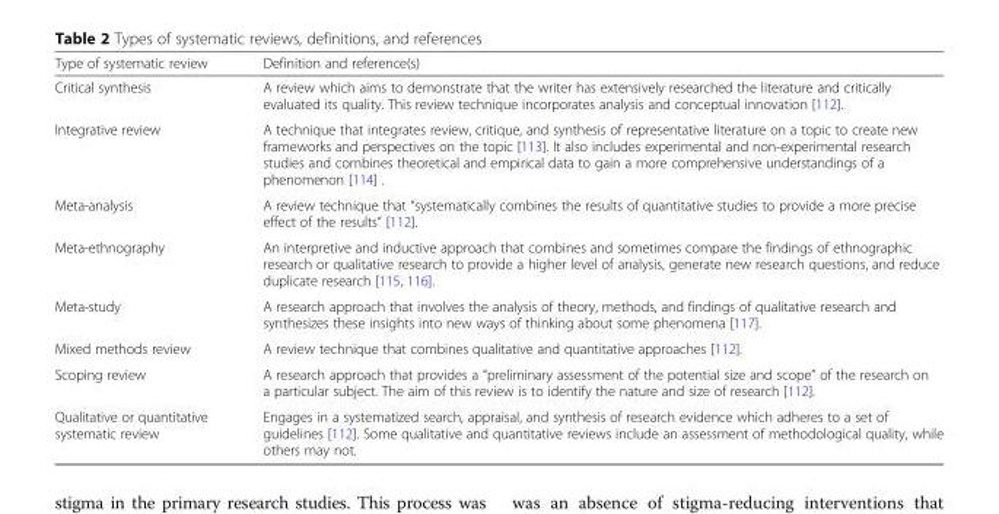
<table><thead><tr><td>Type of systematic review</td><td>Definition and reference(s)</td></tr></thead><tbody><tr><td>Critical synthesis</td><td>A review which aims to demonstrate that the writer has extensively researched the literature and critically evaluated its quality. This review technique incorporates analysis and conceptual innovation [112].</td></tr><tr><td>Integrative review</td><td>A technique that integrates review, critique, and synthesis of representative literature on a topic to create new frameworks and perspectives on the topic [113]. It also includes experimental and non-experimental research studies and combines theoretical and empirical data to gain a more comprehensive understandings of a phenomenon [114] .</td></tr><tr><td>Meta-analysis</td><td>A review technique that “systematically combines the results of quantitative studies to provide a more precise effect of the results” [112].</td></tr><tr><td>Meta-ethnography</td><td>An interpretive and inductive approach that combines and sometimes compare the findings of ethnographic research or qualitative research to provide a higher level of analysis, generate new research questions, and reduce duplicate research [115, 116].</td></tr><tr><td>Meta-study</td><td>A research approach that involves the analysis of theory, methods, and findings of qualitative research and synthesizes these insights into new ways of thinking about some phenomena [117].</td></tr><tr><td>Mixed methods review</td><td>A review technique that combines qualitative and quantitative approaches [112].</td></tr><tr><td>Scoping review</td><td>A research approach that provides a “preliminary assessment of the potential size and scope” of the research on a particular subject. The aim of this review is to identify the nature and size of research [112].</td></tr><tr><td>Qualitative or quantitative systematic review</td><td>Engages in a systematized search, appraisal, and synthesis of research evidence which adheres to a set of guidelines [112]. Some qualitative and quantitative reviews include an assessment of methodological quality, while others may not.</td></tr></tbody></table>